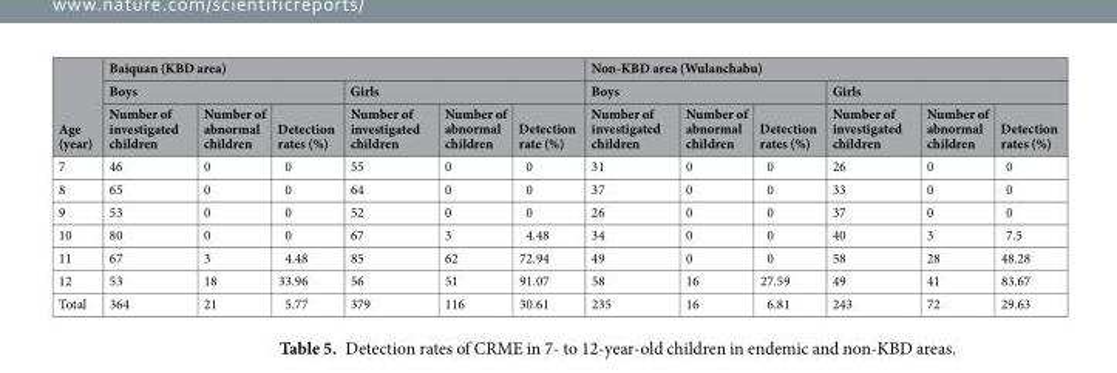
<table><thead><tr><td rowspan="3">Age (year)</td><td colspan="6">Baiquan (KBD area)</td><td colspan="6">Non-KBD area (Wulanchabu)</td></tr><tr><td colspan="3">Boys</td><td colspan="3">Girls</td><td colspan="3">Boys</td><td colspan="3">Girls</td></tr><tr><td>Number of investigated children</td><td>Number of abnormal children</td><td>Detection rates (%)</td><td>Number of investigated children</td><td>Number of abnormal children</td><td>Detection rate (%)</td><td>Number of investigated children</td><td>Number of abnormal children</td><td>Detection rates (%)</td><td>Number of investigated children</td><td>Number of abnormal children</td><td>Detection rates (%)</td></tr></thead><tbody><tr><td>7</td><td>46</td><td>0</td><td>0</td><td>55</td><td>0</td><td>0</td><td>31</td><td>0</td><td>0</td><td>26</td><td>0</td><td>0</td></tr><tr><td>8</td><td>65</td><td>0</td><td>0</td><td>64</td><td>0</td><td>0</td><td>37</td><td>0</td><td>0</td><td>33</td><td>0</td><td>0</td></tr><tr><td>9</td><td>53</td><td>0</td><td>0</td><td>52</td><td>0</td><td>0</td><td>26</td><td>0</td><td>0</td><td>37</td><td>0</td><td>0</td></tr><tr><td>10</td><td>80</td><td>0</td><td>0</td><td>67</td><td>3</td><td>4.48</td><td>34</td><td>0</td><td>0</td><td>40</td><td>3</td><td>7.5</td></tr><tr><td>11</td><td>67</td><td>3</td><td>4.48</td><td>85</td><td>62</td><td>72.94</td><td>49</td><td>0</td><td>0</td><td>58</td><td>28</td><td>48.28</td></tr><tr><td>12</td><td>53</td><td>18</td><td>33.96</td><td>56</td><td>51</td><td>91.07</td><td>58</td><td>16</td><td>27.59</td><td>49</td><td>41</td><td>83.67</td></tr><tr><td>Total</td><td>364</td><td>21</td><td>5.77</td><td>379</td><td>116</td><td>30.61</td><td>235</td><td>16</td><td>6.81</td><td>243</td><td>72</td><td>29.63</td></tr></tbody></table>